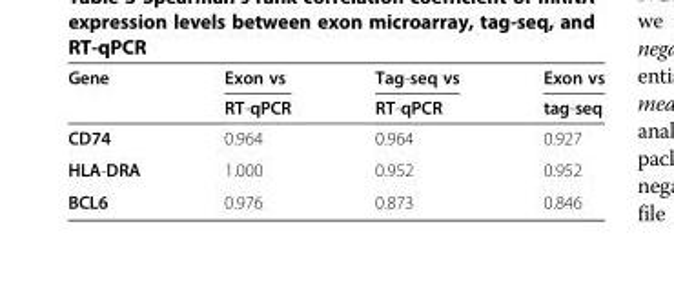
<table><thead><tr><td rowspan="2">Gene</td><td rowspan="2">Exon vs RT-qPCR</td><td rowspan="2">Tag-seq vs RT-qPCR</td><td rowspan="2">Exon vs tag-seq</td></tr><tr></tr></thead><tbody><tr><td>CD74</td><td>0.964</td><td>0.964</td><td>0.927</td></tr><tr><td>HLA-DRA</td><td>1.000</td><td>0.952</td><td>0.952</td></tr><tr><td>BCL6</td><td>0.976</td><td>0.873</td><td>0.846</td></tr></tbody></table>